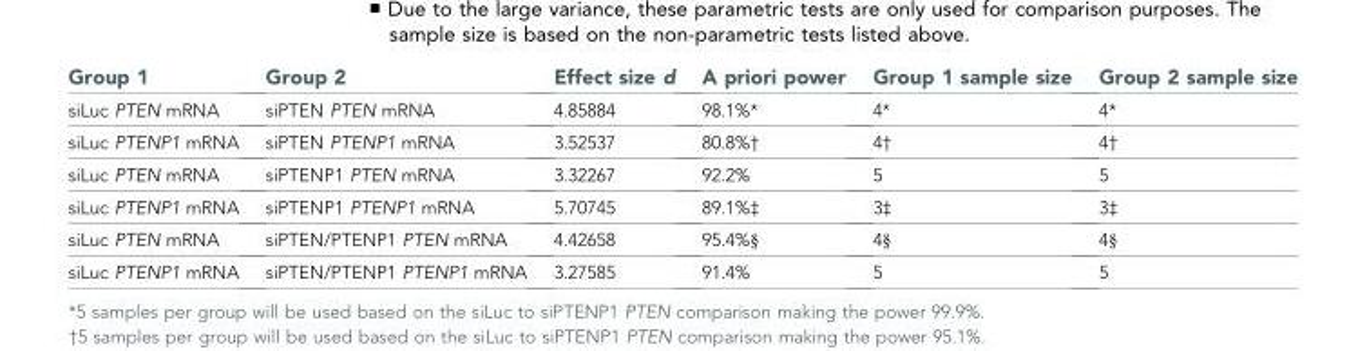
<table><thead><tr><td>Group 1</td><td>Group 2</td><td>Effect size d</td><td>A priori power</td><td>Group 1 sample size</td><td>Group 2 sample size</td></tr></thead><tbody><tr><td>siLuc PTEN mRNA</td><td>siPTEN PTEN mRNA</td><td>4.85884</td><td>98.1%*</td><td>4*</td><td>4*</td></tr><tr><td>siLuc PTENP1 mRNA</td><td>siPTEN PTENP1 mRNA</td><td>3.52537</td><td>80.8%†</td><td>4†</td><td>4†</td></tr><tr><td>siLuc PTEN mRNA</td><td>siPTENP1 PTEN mRNA</td><td>3.32267</td><td>92.2%</td><td>5</td><td>5</td></tr><tr><td>siLuc PTENP1 mRNA</td><td>siPTENP1 PTENP1 mRNA</td><td>5.70745</td><td>89.1%‡</td><td>3‡</td><td>3‡</td></tr><tr><td>siLuc PTEN mRNA</td><td>siPTEN/PTENP1 PTEN mRNA</td><td>4.42658</td><td>95.4%§</td><td>4§</td><td>4§</td></tr><tr><td>siLuc PTENP1 mRNA</td><td>siPTEN/PTENP1 PTENP1 mRNA</td><td>3.27585</td><td>91.4%</td><td>5</td><td>5</td></tr></tbody></table>